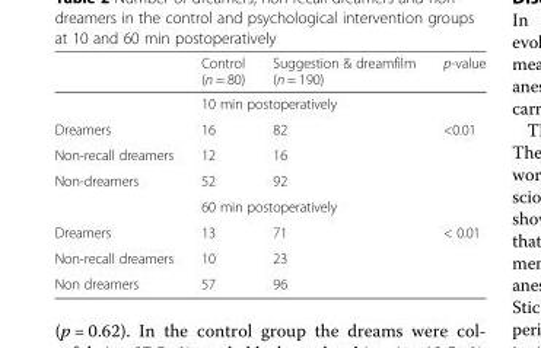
<table><thead><tr><td></td><td>Control (n = 80)</td><td>Suggestion &amp; dreamfilm (n = 190)</td><td>p-value</td></tr></thead><tbody><tr><td></td><td colspan="2">10 min postoperatively</td><td></td></tr><tr><td>Dreamers</td><td>16</td><td>82</td><td rowspan="3">&lt;0.01</td></tr><tr><td>Non-recall dreamers</td><td>12</td><td>16</td></tr><tr><td rowspan="2">Non-dreamers</td><td>52</td><td>92</td></tr><tr><td colspan="2">60 min postoperatively</td><td></td></tr><tr><td>Dreamers</td><td>13</td><td>71</td><td rowspan="3">&lt; 0.01</td></tr><tr><td>Non-recall dreamers</td><td>10</td><td>23</td></tr><tr><td>Non dreamers</td><td>57</td><td>96</td></tr></tbody></table>